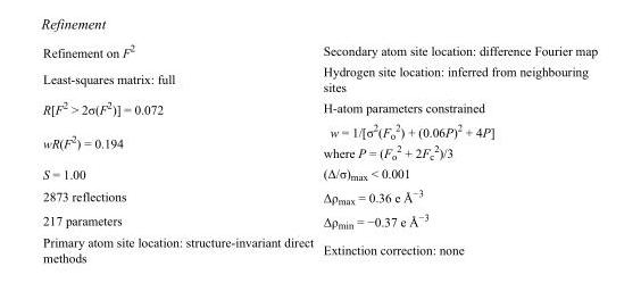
<table><tbody><tr><td>Refinement on F<sup>2</sup></td><td>Secondary atom site location: difference Fourier map</td></tr><tr><td>Least-squares matrix: full</td><td>Hydrogen site location: inferred from neighbouring sites</td></tr><tr><td>R[F<sup>2</sup> &gt; 2σ(F<sup>2</sup>)] = 0.072</td><td>H-atom parameters constrained</td></tr><tr><td>wR(F<sup>2</sup>) = 0.194</td><td>w = 1/[σ<sup>2</sup>(F<sub>o</sub> <sup>2</sup>) + (0.06P)<sup>2</sup> + 4P] where P = (F<sub>o</sub> <sup>2</sup> + 2F<sub>c</sub> <sup>2</sup>)/3</td></tr><tr><td>S = 1.00</td><td>(Δ/σ)<sub>max</sub> &lt; 0.001</td></tr><tr><td>2873 reflections</td><td>Δρ<sub>max</sub> = 0.36 e Å<sup>−3</sup></td></tr><tr><td>217 parameters</td><td>Δρ<sub>min</sub> = −0.37 e Å<sup>−3</sup></td></tr><tr><td>Primary atom site location: structure-invariant direct methods</td><td>Extinction correction: none</td></tr></tbody></table>